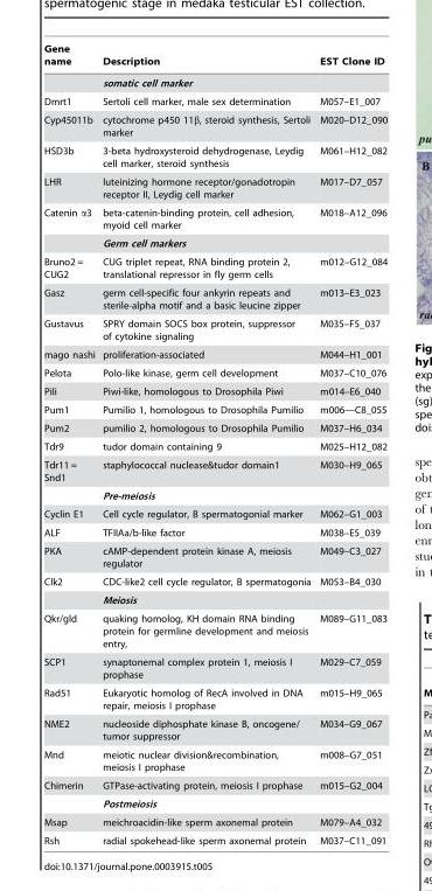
<table><thead><tr><td>Gene name</td><td>Description</td><td>EST Clone ID</td></tr></thead><tbody><tr><td></td><td>somatic cell marker</td><td></td></tr><tr><td>Dmrt1</td><td>Sertoli cell marker, male sex determination</td><td>M057–E1_007</td></tr><tr><td>Cyp45011b</td><td>cytochrome p450 11β, steroid synthesis, Sertoli marker</td><td>M020–D12_090</td></tr><tr><td>HSD3b</td><td>3-beta hydroxysteroid dehydrogenase, Leydig cell marker, steroid synthesis</td><td>M061–H12_082</td></tr><tr><td>LHR</td><td>luteinizing hormone receptor/gonadotropin receptor II, Leydig cell marker</td><td>M017–D7_057</td></tr><tr><td rowspan="2">Catenin α3</td><td>beta-catenin-binding protein, cell adhesion, myoid cell marker</td><td>M018–A12_096</td></tr><tr><td>Germ cell markers</td><td></td></tr><tr><td>Bruno2 = CUG2</td><td>CUG triplet repeat, RNA binding protein 2, translational repressor in fly germ cells</td><td>m012–G12_084</td></tr><tr><td>Gasz</td><td>germ cell-specific four ankyrin repeats and sterile-alpha motif and a basic leucine zipper</td><td>m013–E3_023</td></tr><tr><td>Gustavus</td><td>SPRY domain SOCS box protein, suppressor of cytokine signaling</td><td>M035–F5_037</td></tr><tr><td>mago nashi</td><td>proliferation-associated</td><td>M044–H1_001</td></tr><tr><td>Pelota</td><td>Polo-like kinase, germ cell development</td><td>M037–C10_076</td></tr><tr><td>Pili</td><td>Piwi-like, homologous to Drosophila Piwi</td><td>m014–E6_040</td></tr><tr><td>Pum1</td><td>Pumilio 1, homologous to Drosophila Pumilio</td><td>m006—C8_055</td></tr><tr><td>Pum2</td><td>pumilio 2, homologous to Drosophila Pumilio</td><td>M037–H6_034</td></tr><tr><td>Tdr9</td><td>tudor domain containing 9</td><td>M025–H12_082</td></tr><tr><td rowspan="2">Tdr11 = Snd1</td><td>staphylococcal nuclease&amp;tudor domain1</td><td>M030–H9_065</td></tr><tr><td>Pre-meiosis</td><td></td></tr><tr><td>Cyclin E1</td><td>Cell cycle regulator, B spermatogonial marker</td><td>M062–G1_003</td></tr><tr><td>ALF</td><td>TFIIAa/b-like factor</td><td>M038–E5_039</td></tr><tr><td>PKA</td><td>cAMP-dependent protein kinase A, meiosis regulator</td><td>M049–C3_027</td></tr><tr><td rowspan="2">Clk2</td><td>CDC-like2 cell cycle regulator, B spermatogonia</td><td>M053–B4_030</td></tr><tr><td>Meiosis</td><td></td></tr><tr><td>Qkr/gld</td><td>quaking homolog, KH domain RNA binding protein for germline development and meiosis entry,</td><td>M089–G11_083</td></tr><tr><td>SCP1</td><td>synaptonemal complex protein 1, meiosis I prophase</td><td>M029–C7_059</td></tr><tr><td>Rad51</td><td>Eukaryotic homolog of RecA involved in DNA repair, meiosis I prophase</td><td>m015–H9_065</td></tr><tr><td>NME2</td><td>nucleoside diphosphate kinase B, oncogene/ tumor suppressor</td><td>M034–G9_067</td></tr><tr><td>Mnd</td><td>meiotic nuclear division&amp;recombination, meiosis I prophase</td><td>m008–G7_051</td></tr><tr><td rowspan="2">Chimerin</td><td>GTPase-activating protein, meiosis I prophase</td><td>m015–G2_004</td></tr><tr><td>Postmeiosis</td><td></td></tr><tr><td>Msap</td><td>meichroacidin-like sperm axonemal protein</td><td>M079–A4_032</td></tr><tr><td>Rsh</td><td>radial spokehead-like sperm axonemal protein</td><td>M037–C11_091</td></tr></tbody></table>